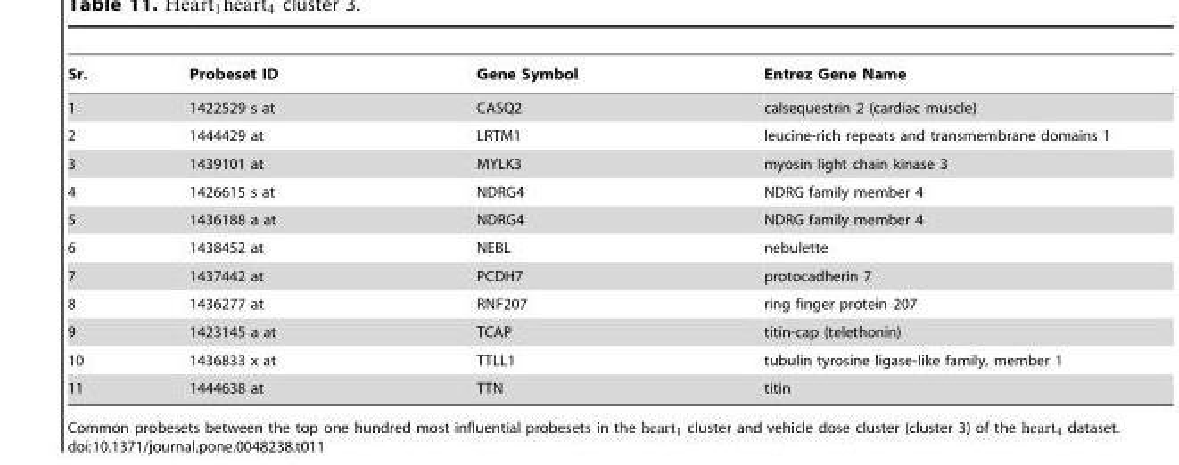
<table><thead><tr><td>Sr.</td><td>Probeset ID</td><td>Gene Symbol</td><td>Entrez Gene Name</td></tr></thead><tbody><tr><td>1</td><td>1422529 s at</td><td>CASQ2</td><td>calsequestrin 2 (cardiac muscle)</td></tr><tr><td>2</td><td>1444429 at</td><td>LRTM1</td><td>leucine-rich repeats and transmembrane domains 1</td></tr><tr><td>3</td><td>1439101 at</td><td>MYLK3</td><td>myosin light chain kinase 3</td></tr><tr><td>4</td><td>1426615 s at</td><td>NDRG4</td><td>NDRG family member 4</td></tr><tr><td>5</td><td>1436188 a at</td><td>NDRG4</td><td>NDRG family member 4</td></tr><tr><td>6</td><td>1438452 at</td><td>NEBL</td><td>nebulette</td></tr><tr><td>7</td><td>1437442 at</td><td>PCDH7</td><td>protocadherin 7</td></tr><tr><td>8</td><td>1436277 at</td><td>RNF207</td><td>ring finger protein 207</td></tr><tr><td>9</td><td>1423145 a at</td><td>TCAP</td><td>titin-cap (telethonin)</td></tr><tr><td>10</td><td>1436833 x at</td><td>TTLL1</td><td>tubulin tyrosine ligase-like family, member 1</td></tr><tr><td>11</td><td>1444638 at</td><td>TTN</td><td>titin</td></tr></tbody></table>